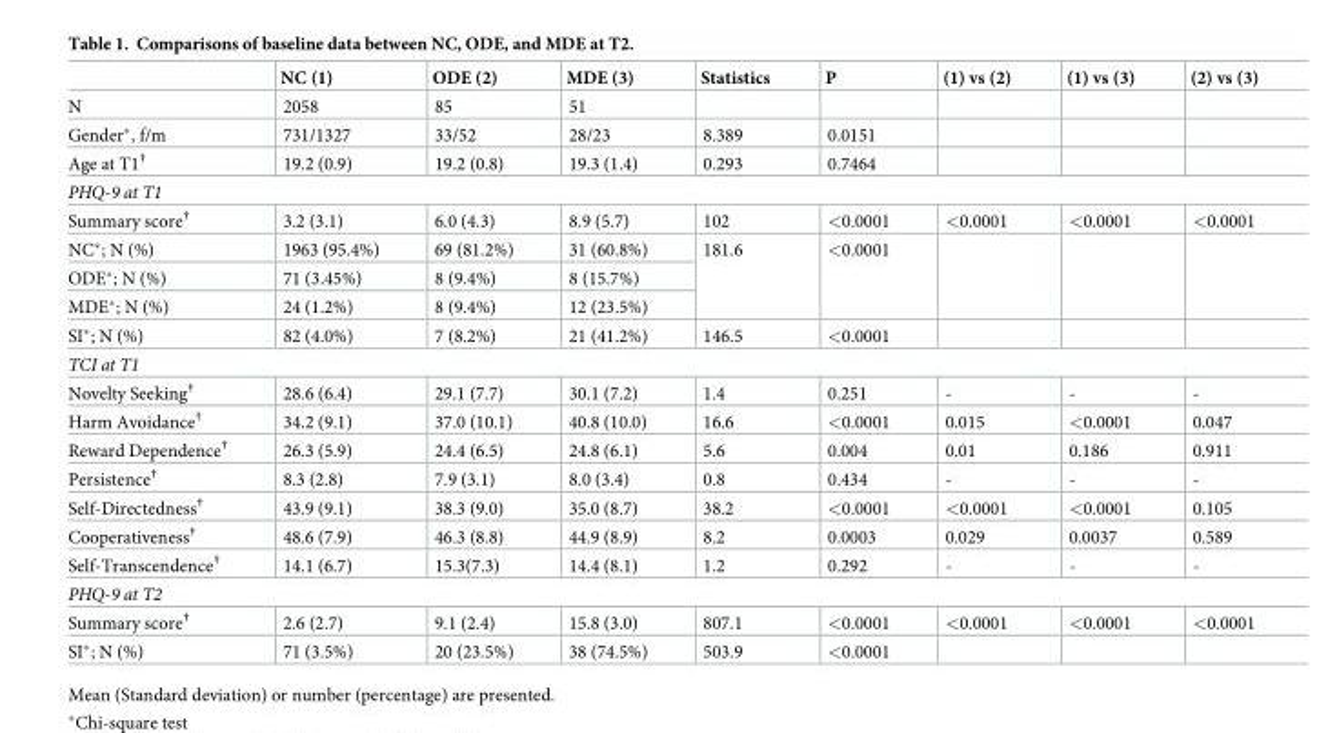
<table><thead><tr><td></td><td>NC (1)</td><td>ODE (2)</td><td>MDE (3)</td><td>Statistics</td><td>P</td><td>(1) vs (2)</td><td>(1) vs (3)</td><td>(2) vs (3)</td></tr></thead><tbody><tr><td>N</td><td>2058</td><td>85</td><td>51</td><td></td><td></td><td></td><td></td><td></td></tr><tr><td>Gender*, f/m</td><td>731/1327</td><td>33/52</td><td>28/23</td><td>8.389</td><td>0.0151</td><td></td><td></td><td></td></tr><tr><td>Age at T1<sup>†</sup></td><td>19.2 (0.9)</td><td>19.2 (0.8)</td><td>19.3 (1.4)</td><td>0.293</td><td>0.7464</td><td></td><td></td><td></td></tr><tr><td colspan="9">PHQ-9 at T1</td></tr><tr><td>Summary score<sup>†</sup></td><td>3.2 (3.1)</td><td>6.0 (4.3)</td><td>8.9 (5.7)</td><td>102</td><td>&lt;0.0001</td><td>&lt;0.0001</td><td>&lt;0.0001</td><td>&lt;0.0001</td></tr><tr><td>NC*; N (%)</td><td>1963 (95.4%)</td><td>69 (81.2%)</td><td>31 (60.8%)</td><td rowspan="3">181.6</td><td rowspan="3">&lt;0.0001</td><td rowspan="3"></td><td rowspan="3"></td><td rowspan="3"></td></tr><tr><td>ODE*; N (%)</td><td>71 (3.45%)</td><td>8 (9.4%)</td><td>8 (15.7%)</td></tr><tr><td>MDE*; N (%)</td><td>24 (1.2%)</td><td>8 (9.4%)</td><td>12 (23.5%)</td></tr><tr><td>SI*; N (%)</td><td>82 (4.0%)</td><td>7 (8.2%)</td><td>21 (41.2%)</td><td>146.5</td><td>&lt;0.0001</td><td></td><td></td><td></td></tr><tr><td colspan="9">TCI at T1</td></tr><tr><td>Novelty Seeking<sup>†</sup></td><td>28.6 (6.4)</td><td>29.1 (7.7)</td><td>30.1 (7.2)</td><td>1.4</td><td>0.251</td><td>-</td><td>-</td><td>-</td></tr><tr><td>Harm Avoidance<sup>†</sup></td><td>34.2 (9.1)</td><td>37.0 (10.1)</td><td>40.8 (10.0)</td><td>16.6</td><td>&lt;0.0001</td><td>0.015</td><td>&lt;0.0001</td><td>0.047</td></tr><tr><td>Reward Dependence<sup>†</sup></td><td>26.3 (5.9)</td><td>24.4 (6.5)</td><td>24.8 (6.1)</td><td>5.6</td><td>0.004</td><td>0.01</td><td>0.186</td><td>0.911</td></tr><tr><td>Persistence<sup>†</sup></td><td>8.3 (2.8)</td><td>7.9 (3.1)</td><td>8.0 (3.4)</td><td>0.8</td><td>0.434</td><td>-</td><td>-</td><td>-</td></tr><tr><td>Self-Directedness<sup>†</sup></td><td>43.9 (9.1)</td><td>38.3 (9.0)</td><td>35.0 (8.7)</td><td>38.2</td><td>&lt;0.0001</td><td>&lt;0.0001</td><td>&lt;0.0001</td><td>0.105</td></tr><tr><td>Cooperativeness<sup>†</sup></td><td>48.6 (7.9)</td><td>46.3 (8.8)</td><td>44.9 (8.9)</td><td>8.2</td><td>0.0003</td><td>0.029</td><td>0.0037</td><td>0.589</td></tr><tr><td>Self-Transcendence<sup>†</sup></td><td>14.1 (6.7)</td><td>15.3(7.3)</td><td>14.4 (8.1)</td><td>1.2</td><td>0.292</td><td>-</td><td>-</td><td>-</td></tr><tr><td colspan="9">PHQ-9 at T2</td></tr><tr><td>Summary score<sup>†</sup></td><td>2.6 (2.7)</td><td>9.1 (2.4)</td><td>15.8 (3.0)</td><td>807.1</td><td>&lt;0.0001</td><td>&lt;0.0001</td><td>&lt;0.0001</td><td>&lt;0.0001</td></tr><tr><td>SI*; N (%)</td><td>71 (3.5%)</td><td>20 (23.5%)</td><td>38 (74.5%)</td><td>503.9</td><td>&lt;0.0001</td><td></td><td></td><td></td></tr></tbody></table>